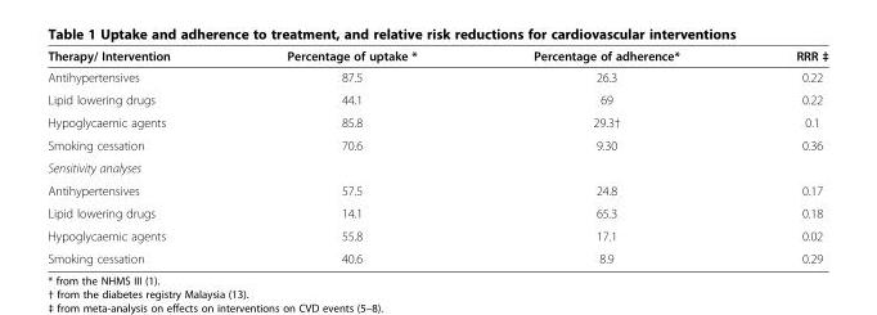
<table><thead><tr><td>Therapy/ Intervention</td><td>Percentage of uptake *</td><td>Percentage of adherence*</td><td>RRR ‡</td></tr></thead><tbody><tr><td>Antihypertensives</td><td>87.5</td><td>26.3</td><td>0.22</td></tr><tr><td>Lipid lowering drugs</td><td>44.1</td><td>69</td><td>0.22</td></tr><tr><td>Hypoglycaemic agents</td><td>85.8</td><td>29.3†</td><td>0.1</td></tr><tr><td>Smoking cessation</td><td>70.6</td><td>9.30</td><td>0.36</td></tr><tr><td colspan="4">Sensitivity analyses</td></tr><tr><td>Antihypertensives</td><td>57.5</td><td>24.8</td><td>0.17</td></tr><tr><td>Lipid lowering drugs</td><td>14.1</td><td>65.3</td><td>0.18</td></tr><tr><td>Hypoglycaemic agents</td><td>55.8</td><td>17.1</td><td>0.02</td></tr><tr><td>Smoking cessation</td><td>40.6</td><td>8.9</td><td>0.29</td></tr></tbody></table>